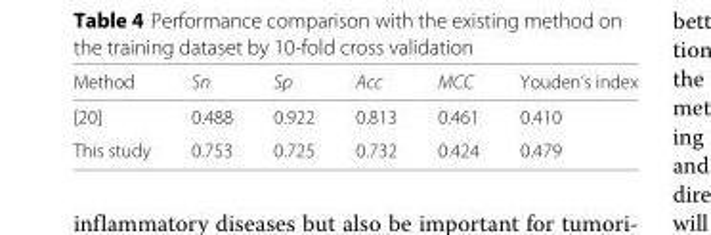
<table><thead><tr><td>Method</td><td>Sn</td><td>Sp</td><td>Acc</td><td>MCC</td><td>Youden’s index</td></tr></thead><tbody><tr><td>[20]</td><td>0.488</td><td>0.922</td><td>0.813</td><td>0.461</td><td>0.410</td></tr><tr><td>This study</td><td>0.753</td><td>0.725</td><td>0.732</td><td>0.424</td><td>0.479</td></tr></tbody></table>